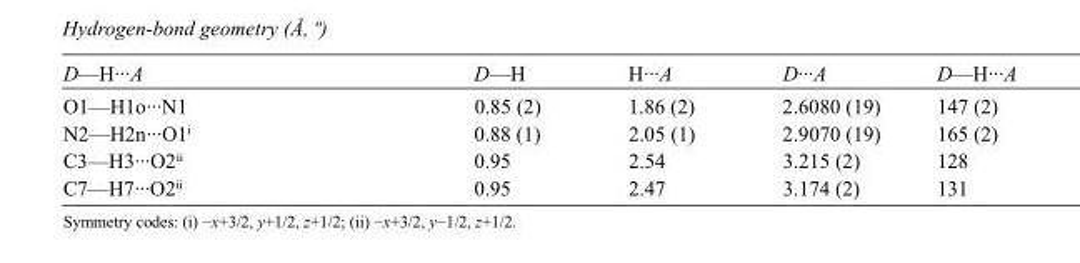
<table><tbody><tr><td>D—H···A</td><td>D—H</td><td>H···A</td><td>D···A</td><td>D—H···A</td></tr><tr><td>O1—H1o···N1</td><td>0.85 (2)</td><td>1.86 (2)</td><td>2.6080 (19)</td><td>147 (2)</td></tr><tr><td>N2—H2n···O1<sup>i</sup></td><td>0.88 (1)</td><td>2.05 (1)</td><td>2.9070 (19)</td><td>165 (2)</td></tr><tr><td>C3—H3···O2<sup>ii</sup></td><td>0.95</td><td>2.54</td><td>3.215 (2)</td><td>128</td></tr><tr><td>C7—H7···O2<sup>ii</sup></td><td>0.95</td><td>2.47</td><td>3.174 (2)</td><td>131</td></tr></tbody></table>